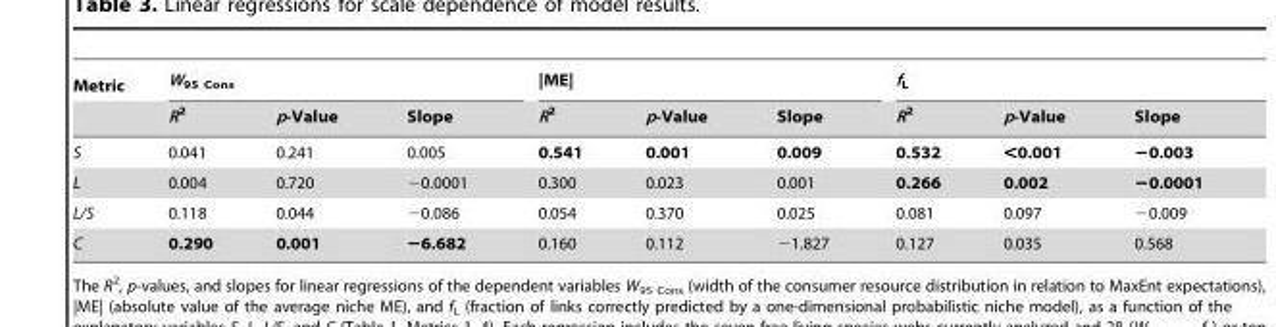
<table><thead><tr><td rowspan="2">Metric</td><td colspan="3">W<sub>95 Cons</sub></td><td colspan="3">|ME|</td><td colspan="3">f<sub>L</sub></td></tr><tr><td>R<sup>2</sup></td><td>p-Value</td><td>Slope</td><td>R<sup>2</sup></td><td>p-Value</td><td>Slope</td><td>R<sup>2</sup></td><td>p-Value</td><td>Slope</td></tr></thead><tbody><tr><td>S</td><td>0.041</td><td>0.241</td><td>0.005</td><td>0.541</td><td>0.001</td><td>0.009</td><td>0.532</td><td>&lt;0.001</td><td>−0.003</td></tr><tr><td>L</td><td>0.004</td><td>0.720</td><td>−0.0001</td><td>0.300</td><td>0.023</td><td>0.001</td><td>0.266</td><td>0.002</td><td>−0.0001</td></tr><tr><td>L/S</td><td>0.118</td><td>0.044</td><td>−0.086</td><td>0.054</td><td>0.370</td><td>0.025</td><td>0.081</td><td>0.097</td><td>−0.009</td></tr><tr><td>C</td><td>0.290</td><td>0.001</td><td>−6.682</td><td>0.160</td><td>0.112</td><td>−1.827</td><td>0.127</td><td>0.035</td><td>0.568</td></tr></tbody></table>